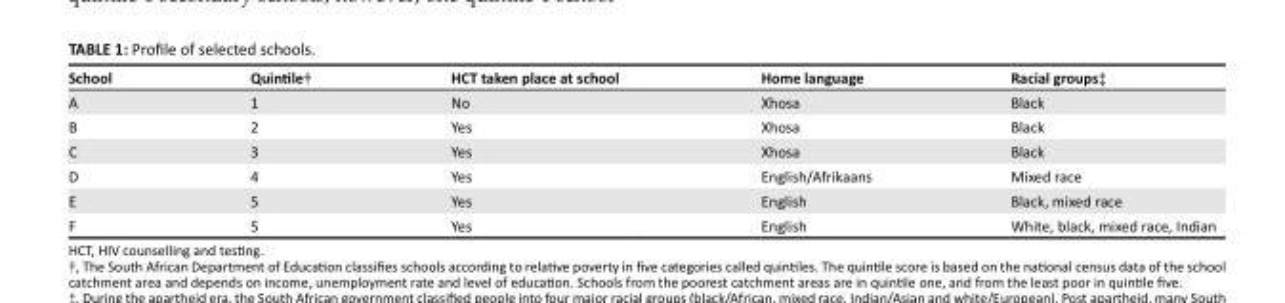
<table><thead><tr><td>School</td><td>Quintile†</td><td>HCT taken place at school</td><td>Home language</td><td>Racial groups‡</td></tr></thead><tbody><tr><td>A</td><td>1</td><td>No</td><td>Xhosa</td><td>Black</td></tr><tr><td>B</td><td>2</td><td>Yes</td><td>Xhosa</td><td>Black</td></tr><tr><td>C</td><td>3</td><td>Yes</td><td>Xhosa</td><td>Black</td></tr><tr><td>D</td><td>4</td><td>Yes</td><td>English/Afrikaans</td><td>Mixed race</td></tr><tr><td>E</td><td>5</td><td>Yes</td><td>English</td><td>Black, mixed race</td></tr><tr><td>F</td><td>5</td><td>Yes</td><td>English</td><td>White, black, mixed race, Indian</td></tr></tbody></table>